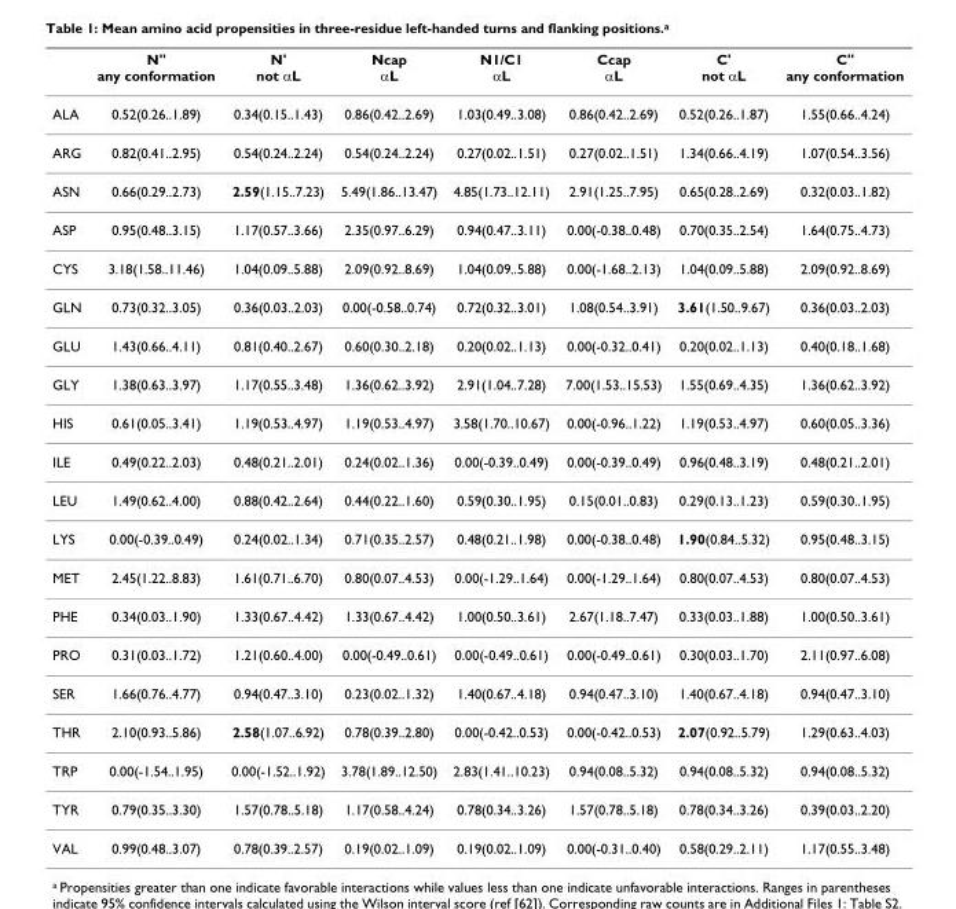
<table><thead><tr><td></td><td>N&quot; any conformation</td><td>N&#x27; not αL</td><td>Ncap αL</td><td>N1/C1 αL</td><td>Ccap αL</td><td>C&#x27; not αL</td><td>C&quot; any conformation</td></tr></thead><tbody><tr><td>ALA</td><td>0.52(0.26..1.89)</td><td>0.34(0.15..1.43)</td><td>0.86(0.42..2.69)</td><td>1.03(0.49..3.08)</td><td>0.86(0.42..2.69)</td><td>0.52(0.26..1.87)</td><td>1.55(0.66..4.24)</td></tr><tr><td>ARG</td><td>0.82(0.41..2.95)</td><td>0.54(0.24..2.24)</td><td>0.54(0.24..2.24)</td><td>0.27(0.02..1.51)</td><td>0.27(0.02..1.51)</td><td>1.34(0.66..4.19)</td><td>1.07(0.54..3.56)</td></tr><tr><td>ASN</td><td>0.66(0.29..2.73)</td><td>2.59(1.15..7.23)</td><td>5.49(1.86..13.47)</td><td>4.85(1.73..12.11)</td><td>2.91(1.25..7.95)</td><td>0.65(0.28..2.69)</td><td>0.32(0.03..1.82)</td></tr><tr><td>ASP</td><td>0.95(0.48..3.15)</td><td>1.17(0.57..3.66)</td><td>2.35(0.97..6.29)</td><td>0.94(0.47..3.11)</td><td>0.00(-0.38..0.48)</td><td>0.70(0.35..2.54)</td><td>1.64(0.75..4.73)</td></tr><tr><td>CYS</td><td>3.18(1.58..11.46)</td><td>1.04(0.09..5.88)</td><td>2.09(0.92..8.69)</td><td>1.04(0.09..5.88)</td><td>0.00(-1.68..2.13)</td><td>1.04(0.09..5.88)</td><td>2.09(0.92..8.69)</td></tr><tr><td>GLN</td><td>0.73(0.32..3.05)</td><td>0.36(0.03..2.03)</td><td>0.00(-0.58..0.74)</td><td>0.72(0.32..3.01)</td><td>1.08(0.54..3.91)</td><td>3.61(1.50..9.67)</td><td>0.36(0.03..2.03)</td></tr><tr><td>GLU</td><td>1.43(0.66..4.11)</td><td>0.81(0.40..2.67)</td><td>0.60(0.30..2.18)</td><td>0.20(0.02..1.13)</td><td>0.00(-0.32..0.41)</td><td>0.20(0.02..1.13)</td><td>0.40(0.18..1.68)</td></tr><tr><td>GLY</td><td>1.38(0.63..3.97)</td><td>1.17(0.55..3.48)</td><td>1.36(0.62..3.92)</td><td>2.91(1.04..7.28)</td><td>7.00(1.53..15.53)</td><td>1.55(0.69..4.35)</td><td>1.36(0.62..3.92)</td></tr><tr><td>HIS</td><td>0.61(0.05..3.41)</td><td>1.19(0.53..4.97)</td><td>1.19(0.53..4.97)</td><td>3.58(1.70..10.67)</td><td>0.00(-0.96..1.22)</td><td>1.19(0.53..4.97)</td><td>0.60(0.05..3.36)</td></tr><tr><td>ILE</td><td>0.49(0.22..2.03)</td><td>0.48(0.21..2.01)</td><td>0.24(0.02..1.36)</td><td>0.00(-0.39..0.49)</td><td>0.00(-0.39..0.49)</td><td>0.96(0.48..3.19)</td><td>0.48(0.21..2.01)</td></tr><tr><td>LEU</td><td>1.49(0.62..4.00)</td><td>0.88(0.42..2.64)</td><td>0.44(0.22..1.60)</td><td>0.59(0.30..1.95)</td><td>0.15(0.01..0.83)</td><td>0.29(0.13..1.23)</td><td>0.59(0.30..1.95)</td></tr><tr><td>LYS</td><td>0.00(-0.39..0.49)</td><td>0.24(0.02..1.34)</td><td>0.71(0.35..2.57)</td><td>0.48(0.21..1.98)</td><td>0.00(-0.38..0.48)</td><td>1.90(0.84..5.32)</td><td>0.95(0.48..3.15)</td></tr><tr><td>MET</td><td>2.45(1.22..8.83)</td><td>1.61(0.71..6.70)</td><td>0.80(0.07..4.53)</td><td>0.00(-1.29..1.64)</td><td>0.00(-1.29..1.64)</td><td>0.80(0.07..4.53)</td><td>0.80(0.07..4.53)</td></tr><tr><td>PHE</td><td>0.34(0.03..1.90)</td><td>1.33(0.67..4.42)</td><td>1.33(0.67..4.42)</td><td>1.00(0.50..3.61)</td><td>2.67(1.18..7.47)</td><td>0.33(0.03..1.88)</td><td>1.00(0.50..3.61)</td></tr><tr><td>PRO</td><td>0.31(0.03..1.72)</td><td>1.21(0.60..4.00)</td><td>0.00(-0.49..0.61)</td><td>0.00(-0.49..0.61)</td><td>0.00(-0.49..0.61)</td><td>0.30(0.03..1.70)</td><td>2.11(0.97..6.08)</td></tr><tr><td>SER</td><td>1.66(0.76..4.77)</td><td>0.94(0.47..3.10)</td><td>0.23(0.02..1.32)</td><td>1.40(0.67..4.18)</td><td>0.94(0.47..3.10)</td><td>1.40(0.67..4.18)</td><td>0.94(0.47..3.10)</td></tr><tr><td>THR</td><td>2.10(0.93..5.86)</td><td>2.58(1.07..6.92)</td><td>0.78(0.39..2.80)</td><td>0.00(-0.42..0.53)</td><td>0.00(-0.42..0.53)</td><td>2.07(0.92..5.79)</td><td>1.29(0.63..4.03)</td></tr><tr><td>TRP</td><td>0.00(-1.54..1.95)</td><td>0.00(-1.52..1.92)</td><td>3.78(1.89..12.50)</td><td>2.83(1.41..10.23)</td><td>0.94(0.08..5.32)</td><td>0.94(0.08..5.32)</td><td>0.94(0.08..5.32)</td></tr><tr><td>TYR</td><td>0.79(0.35..3.30)</td><td>1.57(0.78..5.18)</td><td>1.17(0.58..4.24)</td><td>0.78(0.34..3.26)</td><td>1.57(0.78..5.18)</td><td>0.78(0.34..3.26)</td><td>0.39(0.03..2.20)</td></tr><tr><td>VAL</td><td>0.99(0.48..3.07)</td><td>0.78(0.39..2.57)</td><td>0.19(0.02..1.09)</td><td>0.19(0.02..1.09)</td><td>0.00(-0.31..0.40)</td><td>0.58(0.29..2.11)</td><td>1.17(0.55..3.48)</td></tr></tbody></table>